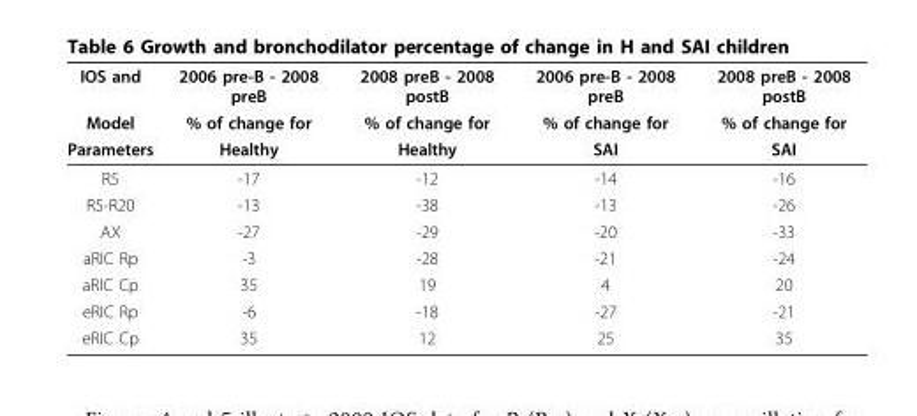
<table><thead><tr><td rowspan="3">IOS and Model Parameters</td><td rowspan="3">2006 pre-B - 2008 preB % of change for Healthy</td><td rowspan="3">2008 preB - 2008 postB % of change for Healthy</td><td rowspan="3">2006 pre-B - 2008 preB % of change for SAI</td><td rowspan="3">2008 preB - 2008 postB % of change for SAI</td></tr><tr></tr><tr></tr></thead><tbody><tr><td>R5</td><td>-17</td><td>-12</td><td>-14</td><td>-16</td></tr><tr><td>R5-R20</td><td>-13</td><td>-38</td><td>-13</td><td>-26</td></tr><tr><td>AX</td><td>-27</td><td>-29</td><td>-20</td><td>-33</td></tr><tr><td>aRIC Rp</td><td>-3</td><td>-28</td><td>-21</td><td>-24</td></tr><tr><td>aRIC Cp</td><td>35</td><td>19</td><td>4</td><td>20</td></tr><tr><td>eRIC Rp</td><td>-6</td><td>-18</td><td>-27</td><td>-21</td></tr><tr><td>eRIC Cp</td><td>35</td><td>12</td><td>25</td><td>35</td></tr></tbody></table>